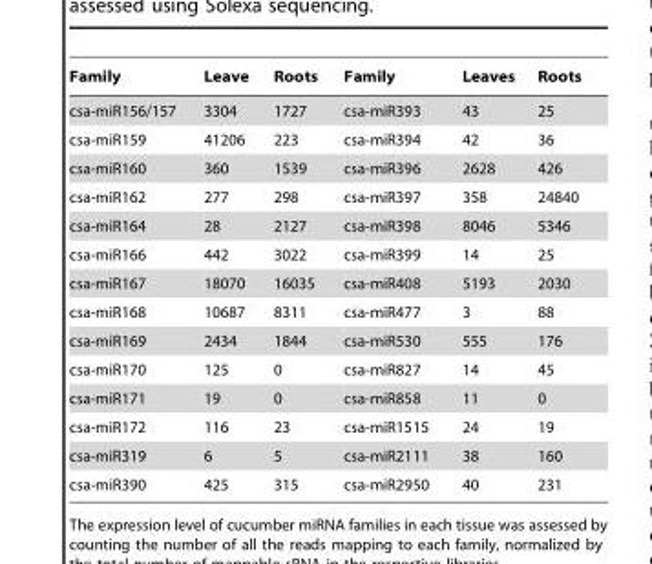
<table><thead><tr><td>Family</td><td>Leave</td><td>Roots</td><td>Family</td><td>Leaves</td><td>Roots</td></tr></thead><tbody><tr><td>csa-miR156/157</td><td>3304</td><td>1727</td><td>csa-miR393</td><td>43</td><td>25</td></tr><tr><td>csa-miR159</td><td>41206</td><td>223</td><td>csa-miR394</td><td>42</td><td>36</td></tr><tr><td>csa-miR160</td><td>360</td><td>1539</td><td>csa-miR396</td><td>2628</td><td>426</td></tr><tr><td>csa-miR162</td><td>277</td><td>298</td><td>csa-miR397</td><td>358</td><td>24840</td></tr><tr><td>csa-miR164</td><td>28</td><td>2127</td><td>csa-miR398</td><td>8046</td><td>5346</td></tr><tr><td>csa-miR166</td><td>442</td><td>3022</td><td>csa-miR399</td><td>14</td><td>25</td></tr><tr><td>csa-miR167</td><td>18070</td><td>16035</td><td>csa-miR408</td><td>5193</td><td>2030</td></tr><tr><td>csa-miR168</td><td>10687</td><td>8311</td><td>csa-miR477</td><td>3</td><td>88</td></tr><tr><td>csa-miR169</td><td>2434</td><td>1844</td><td>csa-miR530</td><td>555</td><td>176</td></tr><tr><td>csa-miR170</td><td>125</td><td>0</td><td>csa-miR827</td><td>14</td><td>45</td></tr><tr><td>csa-miR171</td><td>19</td><td>0</td><td>csa-miR858</td><td>11</td><td>0</td></tr><tr><td>csa-miR172</td><td>116</td><td>23</td><td>csa-miR1515</td><td>24</td><td>19</td></tr><tr><td>csa-miR319</td><td>6</td><td>5</td><td>csa-miR2111</td><td>38</td><td>160</td></tr><tr><td>csa-miR390</td><td>425</td><td>315</td><td>csa-miR2950</td><td>40</td><td>231</td></tr></tbody></table>